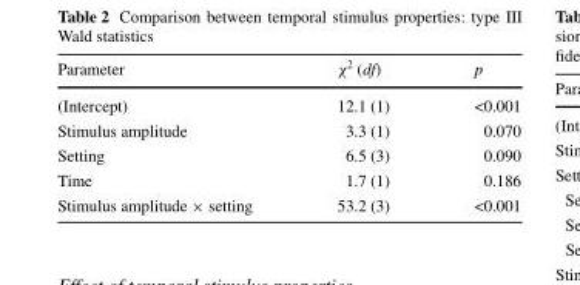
<table><thead><tr><td>Parameter</td><td>χ<sup>2</sup> (df)</td><td>p</td></tr></thead><tbody><tr><td>(Intercept)</td><td>12.1 (1)</td><td>&lt;0.001</td></tr><tr><td>Stimulus amplitude</td><td>3.3 (1)</td><td>0.070</td></tr><tr><td>Setting</td><td>6.5 (3)</td><td>0.090</td></tr><tr><td>Time</td><td>1.7 (1)</td><td>0.186</td></tr><tr><td>Stimulus amplitude × setting</td><td>53.2 (3)</td><td>&lt;0.001</td></tr></tbody></table>